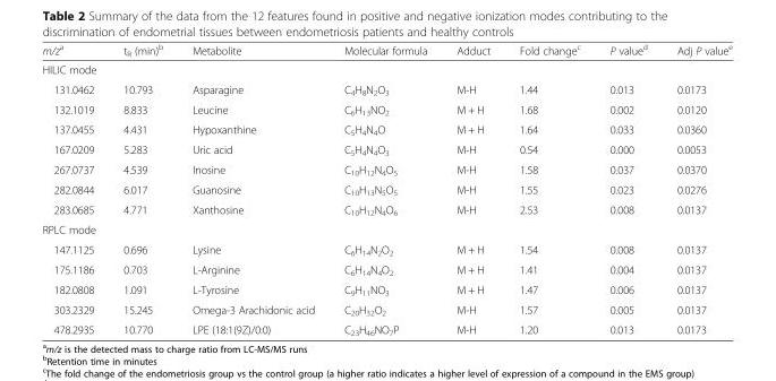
<table><thead><tr><td>m/z<sup>a</sup></td><td>t<sub>R</sub> (min)<sup>b</sup></td><td>Metabolite</td><td>Molecular formula</td><td>Adduct</td><td>Fold change<sup>c</sup></td><td>P value<sup>d</sup></td><td>Adj P value<sup>e</sup></td></tr></thead><tbody><tr><td colspan="8">HILIC mode</td></tr><tr><td>131.0462</td><td>10.793</td><td>Asparagine</td><td>C<sub>4</sub>H<sub>8</sub>N<sub>2</sub>O<sub>3</sub></td><td>M-H</td><td>1.44</td><td>0.013</td><td>0.0173</td></tr><tr><td>132.1019</td><td>8.833</td><td>Leucine</td><td>C<sub>6</sub>H<sub>13</sub>NO<sub>2</sub></td><td>M + H</td><td>1.68</td><td>0.002</td><td>0.0120</td></tr><tr><td>137.0455</td><td>4.431</td><td>Hypoxanthine</td><td>C<sub>5</sub>H<sub>4</sub>N<sub>4</sub>O</td><td>M + H</td><td>1.64</td><td>0.033</td><td>0.0360</td></tr><tr><td>167.0209</td><td>5.283</td><td>Uric acid</td><td>C<sub>5</sub>H<sub>4</sub>N<sub>4</sub>O<sub>3</sub></td><td>M-H</td><td>0.54</td><td>0.000</td><td>0.0053</td></tr><tr><td>267.0737</td><td>4.539</td><td>Inosine</td><td>C<sub>10</sub>H<sub>12</sub>N<sub>4</sub>O<sub>5</sub></td><td>M-H</td><td>1.58</td><td>0.037</td><td>0.0370</td></tr><tr><td>282.0844</td><td>6.017</td><td>Guanosine</td><td>C<sub>10</sub>H<sub>13</sub>N<sub>5</sub>O<sub>5</sub></td><td>M-H</td><td>1.55</td><td>0.023</td><td>0.0276</td></tr><tr><td>283.0685</td><td>4.771</td><td>Xanthosine</td><td>C<sub>10</sub>H<sub>12</sub>N<sub>4</sub>O<sub>6</sub></td><td>M-H</td><td>2.53</td><td>0.008</td><td>0.0137</td></tr><tr><td colspan="8">RPLC mode</td></tr><tr><td>147.1125</td><td>0.696</td><td>Lysine</td><td>C<sub>6</sub>H<sub>14</sub>N<sub>2</sub>O<sub>2</sub></td><td>M + H</td><td>1.54</td><td>0.008</td><td>0.0137</td></tr><tr><td>175.1186</td><td>0.703</td><td>L-Arginine</td><td>C<sub>6</sub>H<sub>14</sub>N<sub>4</sub>O<sub>2</sub></td><td>M + H</td><td>1.41</td><td>0.004</td><td>0.0137</td></tr><tr><td>182.0808</td><td>1.091</td><td>L-Tyrosine</td><td>C<sub>9</sub>H<sub>11</sub>NO<sub>3</sub></td><td>M + H</td><td>1.47</td><td>0.006</td><td>0.0137</td></tr><tr><td>303.2329</td><td>15.245</td><td>Omega-3 Arachidonic acid</td><td>C<sub>20</sub>H<sub>32</sub>O<sub>2</sub></td><td>M-H</td><td>1.57</td><td>0.005</td><td>0.0137</td></tr><tr><td>478.2935</td><td>10.770</td><td>LPE (18:1(9Z)/0:0)</td><td>C<sub>23</sub>H<sub>46</sub>NO<sub>7</sub>P</td><td>M-H</td><td>1.20</td><td>0.013</td><td>0.0173</td></tr></tbody></table>